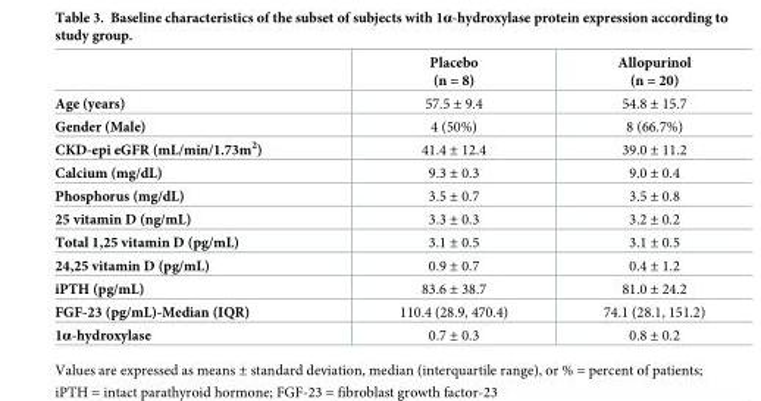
<table><thead><tr><td></td><td>Placebo (n = 8)</td><td>Allopurinol (n = 20)</td></tr></thead><tbody><tr><td>Age (years)</td><td>57.5 ± 9.4</td><td>54.8 ± 15.7</td></tr><tr><td>Gender (Male)</td><td>4 (50%)</td><td>8 (66.7%)</td></tr><tr><td>CKD-epi eGFR (mL/min/1.73m<sup>2</sup>)</td><td>41.4 ± 12.4</td><td>39.0 ± 11.2</td></tr><tr><td>Calcium (mg/dL)</td><td>9.3 ± 0.3</td><td>9.0 ± 0.4</td></tr><tr><td>Phosphorus (mg/dL)</td><td>3.5 ± 0.7</td><td>3.5 ± 0.8</td></tr><tr><td>25 vitamin D (ng/mL)</td><td>3.3 ± 0.3</td><td>3.2 ± 0.2</td></tr><tr><td>Total 1,25 vitamin D (pg/mL)</td><td>3.1 ± 0.5</td><td>3.1 ± 0.5</td></tr><tr><td>24,25 vitamin D (pg/mL)</td><td>0.9 ± 0.7</td><td>0.4 ± 1.2</td></tr><tr><td>iPTH (pg/mL)</td><td>83.6 ± 38.7</td><td>81.0 ± 24.2</td></tr><tr><td>FGF-23 (pg/mL)-Median (IQR)</td><td>110.4 (28.9, 470.4)</td><td>74.1 (28.1, 151.2)</td></tr><tr><td>1α-hydroxylase</td><td>0.7 ± 0.3</td><td>0.8 ± 0.2</td></tr></tbody></table>